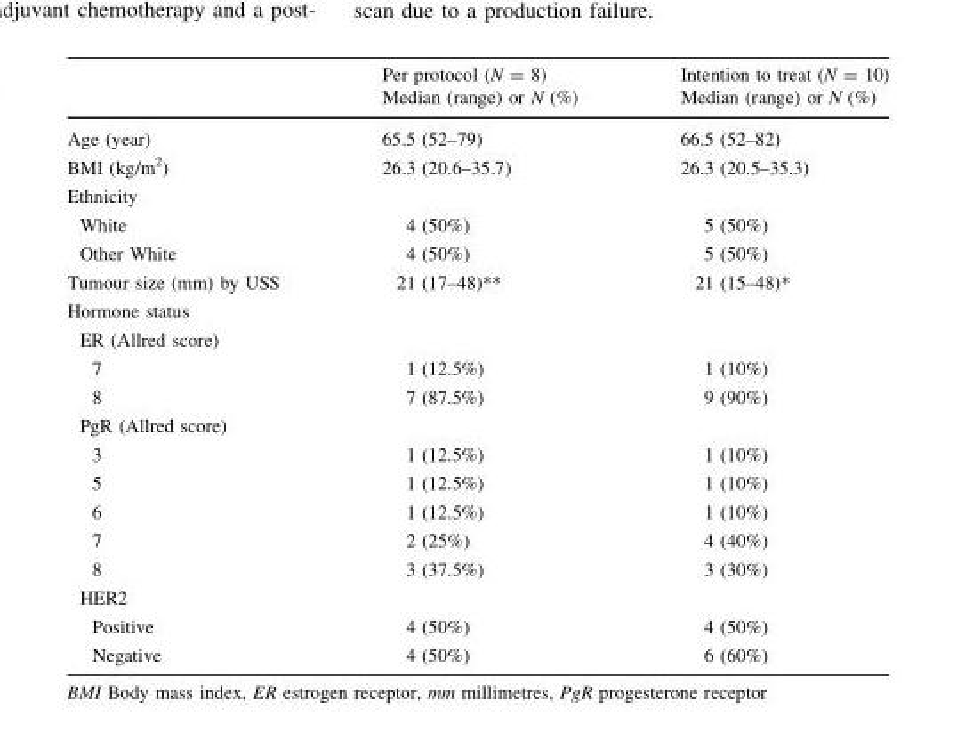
<table><thead><tr><td rowspan="2"></td><td rowspan="2">Per protocol (N = 8) Median (range) or N (%)</td><td rowspan="2">Intention to treat (N = 10) Median (range) or N (%)</td></tr><tr></tr></thead><tbody><tr><td>Age (year)</td><td>65.5 (52–79)</td><td>66.5 (52–82)</td></tr><tr><td>BMI (kg/m<sup>2</sup>)</td><td>26.3 (20.6–35.7)</td><td>26.3 (20.5–35.3)</td></tr><tr><td colspan="3">Ethnicity</td></tr><tr><td>White</td><td>4 (50%)</td><td>5 (50%)</td></tr><tr><td>Other White</td><td>4 (50%)</td><td>5 (50%)</td></tr><tr><td>Tumour size (mm) by USS</td><td>21 (17–48)**</td><td>21 (15–48)*</td></tr><tr><td colspan="3">Hormone status</td></tr><tr><td colspan="3">ER (Allred score)</td></tr><tr><td>7</td><td>1 (12.5%)</td><td>1 (10%)</td></tr><tr><td>8</td><td>7 (87.5%)</td><td>9 (90%)</td></tr><tr><td colspan="3">PgR (Allred score)</td></tr><tr><td>3</td><td>1 (12.5%)</td><td>1 (10%)</td></tr><tr><td>5</td><td>1 (12.5%)</td><td>1 (10%)</td></tr><tr><td>6</td><td>1 (12.5%)</td><td>1 (10%)</td></tr><tr><td>7</td><td>2 (25%)</td><td>4 (40%)</td></tr><tr><td>8</td><td>3 (37.5%)</td><td>3 (30%)</td></tr><tr><td colspan="3">HER2</td></tr><tr><td>Positive</td><td>4 (50%)</td><td>4 (50%)</td></tr><tr><td>Negative</td><td>4 (50%)</td><td>6 (60%)</td></tr></tbody></table>